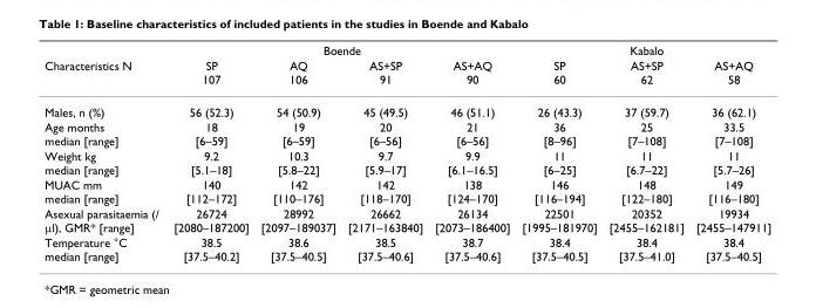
<table><thead><tr><td rowspan="2">Characteristics N</td><td colspan="4">Boende</td><td colspan="3">Kabalo</td></tr><tr><td>SP 107</td><td>AQ 106</td><td>AS+SP 91</td><td>AS+AQ 90</td><td>SP 60</td><td>AS+SP 62</td><td>AS+AQ 58</td></tr></thead><tbody><tr><td>Males, n (%)</td><td>56 (52.3)</td><td>54 (50.9)</td><td>45 (49.5)</td><td>46 (51.1)</td><td>26 (43.3)</td><td>37 (59.7)</td><td>36 (62.1)</td></tr><tr><td>Age months median [range]</td><td>18 [6–59]</td><td>19 [6–59]</td><td>20 [6–56]</td><td>21 [6–56]</td><td>36 [8–96]</td><td>25 [7–108]</td><td>33.5 [7–108]</td></tr><tr><td>Weight kg median [range]</td><td>9.2 [5.1–18]</td><td>10.3 [5.8–22]</td><td>9.7 [5.9–17]</td><td>9.9 [6.1–16.5]</td><td>11 [6–25]</td><td>11 [6.7–22]</td><td>11 [5.7–26]</td></tr><tr><td>MUAC mm median [range]</td><td>140 [112–172]</td><td>142 [110–176]</td><td>142 [118–170]</td><td>138 [124–170]</td><td>146 [116–194]</td><td>148 [122–180]</td><td>149 [116–180]</td></tr><tr><td>Asexual parasitaemia (/ μl), GMR* [range]</td><td>26724 [2080–187200]</td><td>28992 [2097–189037]</td><td>26662 [2171–163840]</td><td>26134 [2073–186400]</td><td>22501 [1995–181970]</td><td>20352 [2455–162181]</td><td>19934 [2455–147911]</td></tr><tr><td>Temperature °C median [range]</td><td>38.5 [37.5–40.2]</td><td>38.6 [37.5–40.5]</td><td>38.5 [37.5–40.6]</td><td>38.7 [37.5–40.6]</td><td>38.4 [37.5–40.5]</td><td>38.4 [37.5–41.0]</td><td>38.4 [37.5–40.5]</td></tr></tbody></table>